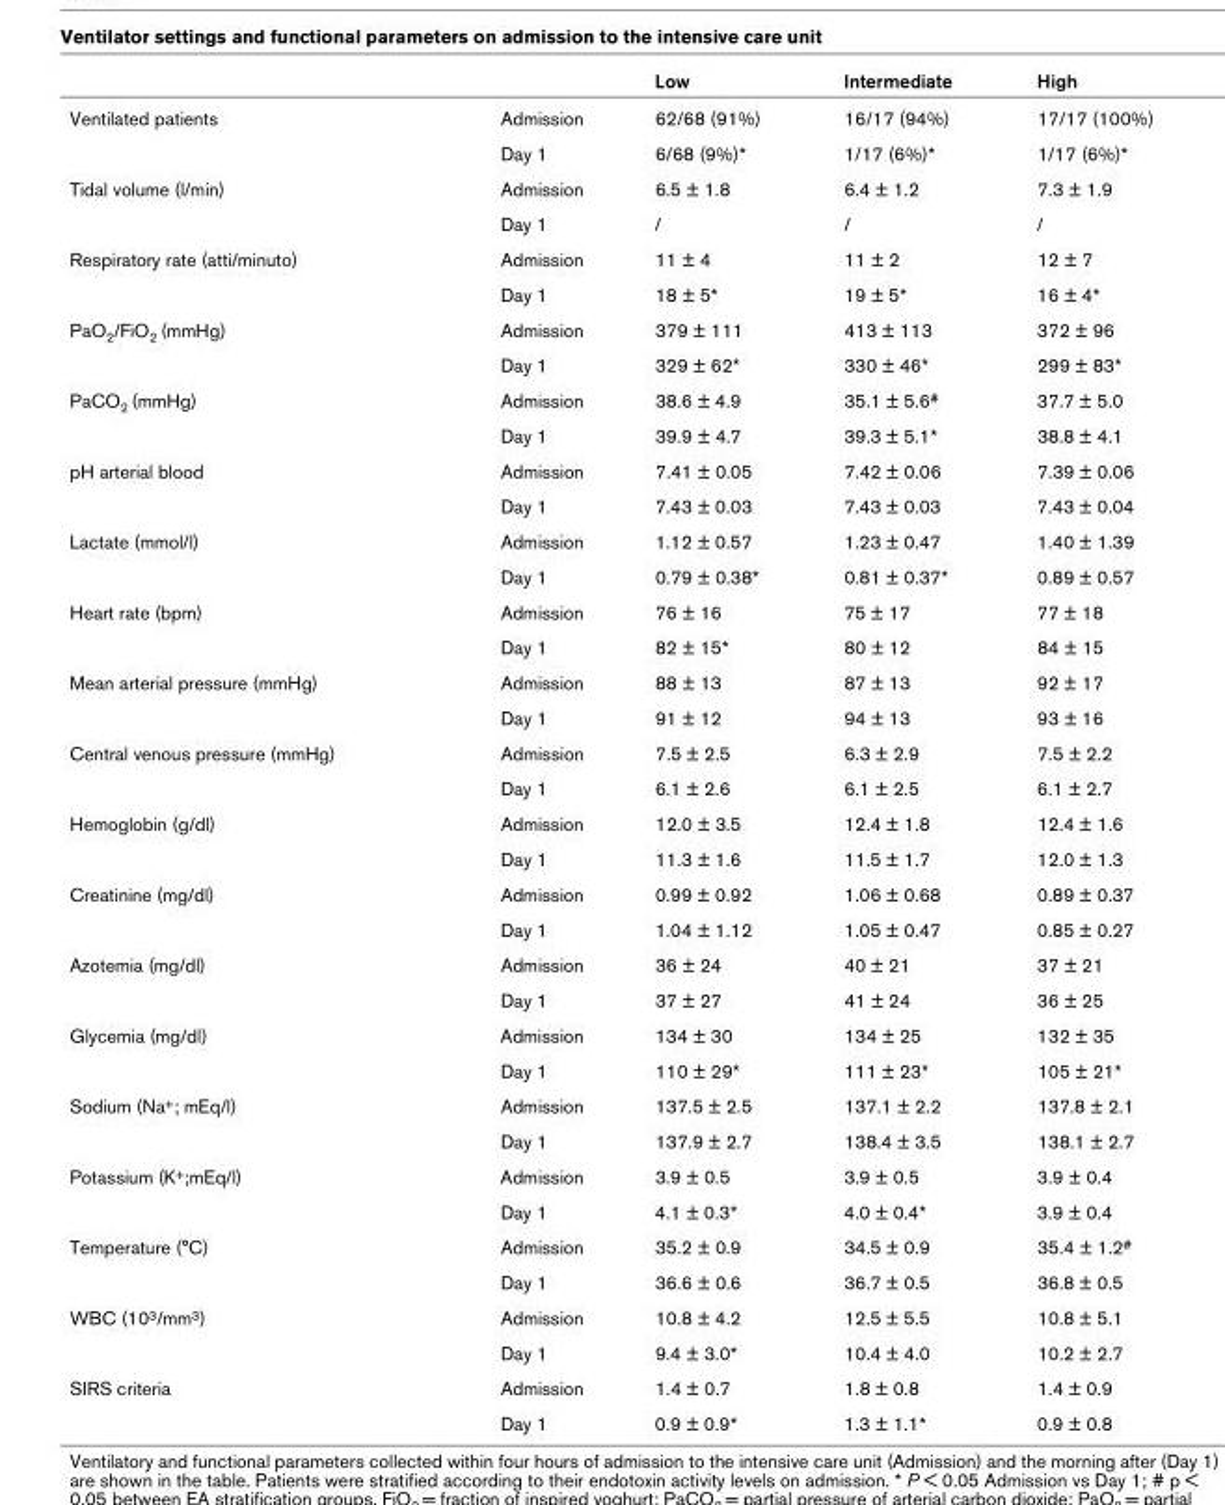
<table><thead><tr><td></td><td></td><td>Low</td><td>Intermediate</td><td>High</td></tr></thead><tbody><tr><td rowspan="2">Ventilated patients</td><td>Admission</td><td>62/68 (91%)</td><td>16/17 (94%)</td><td>17/17 (100%)</td></tr><tr><td>Day 1</td><td>6/68 (9%)*</td><td>1/17 (6%)*</td><td>1/17 (6%)*</td></tr><tr><td rowspan="2">Tidal volume (l/min)</td><td>Admission</td><td>6.5 ± 1.8</td><td>6.4 ± 1.2</td><td>7.3 ± 1.9</td></tr><tr><td>Day 1</td><td>/</td><td>/</td><td>/</td></tr><tr><td rowspan="2">Respiratory rate (atti/minuto)</td><td>Admission</td><td>11 ± 4</td><td>11 ± 2</td><td>12 ± 7</td></tr><tr><td>Day 1</td><td>18 ± 5*</td><td>19 ± 5*</td><td>16 ± 4*</td></tr><tr><td rowspan="2">PaO<sub>2</sub>/FiO<sub>2</sub> (mmHg)</td><td>Admission</td><td>379 ± 111</td><td>413 ± 113</td><td>372 ± 96</td></tr><tr><td>Day 1</td><td>329 ± 62*</td><td>330 ± 46*</td><td>299 ± 83*</td></tr><tr><td rowspan="2">PaCO<sub>2</sub> (mmHg)</td><td>Admission</td><td>38.6 ± 4.9</td><td>35.1 ± 5.6<sup>#</sup></td><td>37.7 ± 5.0</td></tr><tr><td>Day 1</td><td>39.9 ± 4.7</td><td>39.3 ± 5.1*</td><td>38.8 ± 4.1</td></tr><tr><td rowspan="2">pH arterial blood</td><td>Admission</td><td>7.41 ± 0.05</td><td>7.42 ± 0.06</td><td>7.39 ± 0.06</td></tr><tr><td>Day 1</td><td>7.43 ± 0.03</td><td>7.43 ± 0.03</td><td>7.43 ± 0.04</td></tr><tr><td rowspan="2">Lactate (mmol/l)</td><td>Admission</td><td>1.12 ± 0.57</td><td>1.23 ± 0.47</td><td>1.40 ± 1.39</td></tr><tr><td>Day 1</td><td>0.79 ± 0.38*</td><td>0.81 ± 0.37*</td><td>0.89 ± 0.57</td></tr><tr><td rowspan="2">Heart rate (bpm)</td><td>Admission</td><td>76 ± 16</td><td>75 ± 17</td><td>77 ± 18</td></tr><tr><td>Day 1</td><td>82 ± 15*</td><td>80 ± 12</td><td>84 ± 15</td></tr><tr><td rowspan="2">Mean arterial pressure (mmHg)</td><td>Admission</td><td>88 ± 13</td><td>87 ± 13</td><td>92 ± 17</td></tr><tr><td>Day 1</td><td>91 ± 12</td><td>94 ± 13</td><td>93 ± 16</td></tr><tr><td rowspan="2">Central venous pressure (mmHg)</td><td>Admission</td><td>7.5 ± 2.5</td><td>6.3 ± 2.9</td><td>7.5 ± 2.2</td></tr><tr><td>Day 1</td><td>6.1 ± 2.6</td><td>6.1 ± 2.5</td><td>6.1 ± 2.7</td></tr><tr><td rowspan="2">Hemoglobin (g/dl)</td><td>Admission</td><td>12.0 ± 3.5</td><td>12.4 ± 1.8</td><td>12.4 ± 1.6</td></tr><tr><td>Day 1</td><td>11.3 ± 1.6</td><td>11.5 ± 1.7</td><td>12.0 ± 1.3</td></tr><tr><td rowspan="2">Creatinine (mg/dl)</td><td>Admission</td><td>0.99 ± 0.92</td><td>1.06 ± 0.68</td><td>0.89 ± 0.37</td></tr><tr><td>Day 1</td><td>1.04 ± 1.12</td><td>1.05 ± 0.47</td><td>0.85 ± 0.27</td></tr><tr><td rowspan="2">Azotemia (mg/dl)</td><td>Admission</td><td>36 ± 24</td><td>40 ± 21</td><td>37 ± 21</td></tr><tr><td>Day 1</td><td>37 ± 27</td><td>41 ± 24</td><td>36 ± 25</td></tr><tr><td rowspan="2">Glycemia (mg/dl)</td><td>Admission</td><td>134 ± 30</td><td>134 ± 25</td><td>132 ± 35</td></tr><tr><td>Day 1</td><td>110 ± 29*</td><td>111 ± 23*</td><td>105 ± 21*</td></tr><tr><td rowspan="2">Sodium (Na<sup>+</sup>; mEq/l)</td><td>Admission</td><td>137.5 ± 2.5</td><td>137.1 ± 2.2</td><td>137.8 ± 2.1</td></tr><tr><td>Day 1</td><td>137.9 ± 2.7</td><td>138.4 ± 3.5</td><td>138.1 ± 2.7</td></tr><tr><td rowspan="2">Potassium (K<sup>+</sup>;mEq/l)</td><td>Admission</td><td>3.9 ± 0.5</td><td>3.9 ± 0.5</td><td>3.9 ± 0.4</td></tr><tr><td>Day 1</td><td>4.1 ± 0.3*</td><td>4.0 ± 0.4*</td><td>3.9 ± 0.4</td></tr><tr><td rowspan="2">Temperature (°C)</td><td>Admission</td><td>35.2 ± 0.9</td><td>34.5 ± 0.9</td><td>35.4 ± 1.2<sup>#</sup></td></tr><tr><td>Day 1</td><td>36.6 ± 0.6</td><td>36.7 ± 0.5</td><td>36.8 ± 0.5</td></tr><tr><td rowspan="2">WBC (10<sup>3</sup>/mm<sup>3</sup>)</td><td>Admission</td><td>10.8 ± 4.2</td><td>12.5 ± 5.5</td><td>10.8 ± 5.1</td></tr><tr><td>Day 1</td><td>9.4 ± 3.0*</td><td>10.4 ± 4.0</td><td>10.2 ± 2.7</td></tr><tr><td rowspan="2">SIRS criteria</td><td>Admission</td><td>1.4 ± 0.7</td><td>1.8 ± 0.8</td><td>1.4 ± 0.9</td></tr><tr><td>Day 1</td><td>0.9 ± 0.9*</td><td>1.3 ± 1.1*</td><td>0.9 ± 0.8</td></tr></tbody></table>